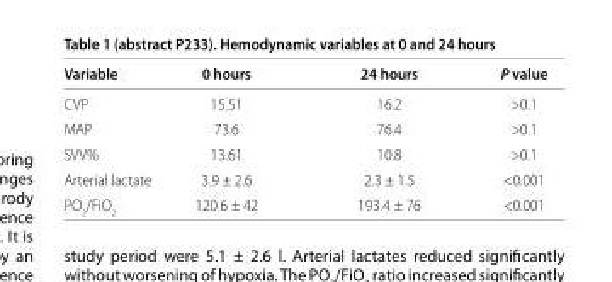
<table><thead><tr><td>Variable</td><td>0 hours</td><td>24 hours</td><td>P value</td></tr></thead><tbody><tr><td>CVP</td><td>15.51</td><td>16.2</td><td>&gt;0.1</td></tr><tr><td>MAP</td><td>73.6</td><td>76.4</td><td>&gt;0.1</td></tr><tr><td>SVV%</td><td>13.61</td><td>10.8</td><td>&gt;0.1</td></tr><tr><td>Arterial lactate</td><td>3.9 ± 2.6</td><td>2.3 ± 1.5</td><td>&lt;0.001</td></tr><tr><td>PO<sub>2</sub>/FiO<sub>2</sub></td><td>120.6 ± 42</td><td>193.4 ± 76</td><td>&lt;0.001</td></tr></tbody></table>